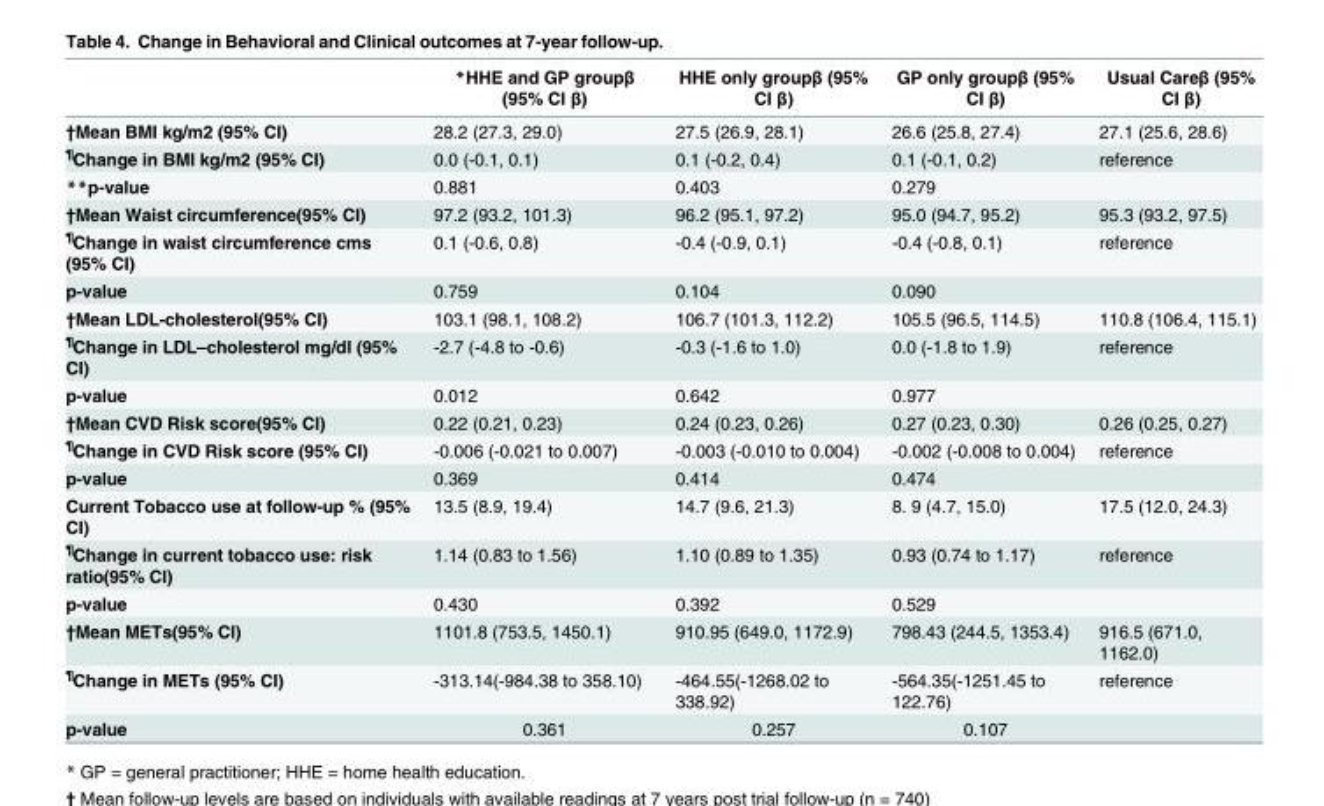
<table><thead><tr><td></td><td>*HHE and GP groupβ (95% CI β)</td><td>HHE only groupβ (95% CI β)</td><td>GP only groupβ (95% CI β)</td><td>Usual Careβ (95% CI β)</td></tr></thead><tbody><tr><td>†Mean BMI kg/m2 (95% CI)</td><td>28.2 (27.3, 29.0)</td><td>27.5 (26.9, 28.1)</td><td>26.6 (25.8, 27.4)</td><td>27.1 (25.6, 28.6)</td></tr><tr><td><sup>¶</sup>Change in BMI kg/m2 (95% CI)</td><td>0.0 (-0.1, 0.1)</td><td>0.1 (-0.2, 0.4)</td><td>0.1 (-0.1, 0.2)</td><td>reference</td></tr><tr><td>**p-value</td><td>0.881</td><td>0.403</td><td>0.279</td><td></td></tr><tr><td>†Mean Waist circumference(95% CI)</td><td>97.2 (93.2, 101.3)</td><td>96.2 (95.1, 97.2)</td><td>95.0 (94.7, 95.2)</td><td>95.3 (93.2, 97.5)</td></tr><tr><td><sup>¶</sup>Change in waist circumference cms (95% CI)</td><td>0.1 (-0.6, 0.8)</td><td>-0.4 (-0.9, 0.1)</td><td>-0.4 (-0.8, 0.1)</td><td>reference</td></tr><tr><td>p-value</td><td>0.759</td><td>0.104</td><td>0.090</td><td></td></tr><tr><td>†Mean LDL-cholesterol(95% CI)</td><td>103.1 (98.1, 108.2)</td><td>106.7 (101.3, 112.2)</td><td>105.5 (96.5, 114.5)</td><td>110.8 (106.4, 115.1)</td></tr><tr><td><sup>¶</sup>Change in LDL–cholesterol mg/dl (95% CI)</td><td>-2.7 (-4.8 to -0.6)</td><td>-0.3 (-1.6 to 1.0)</td><td>0.0 (-1.8 to 1.9)</td><td>reference</td></tr><tr><td>p-value</td><td>0.012</td><td>0.642</td><td>0.977</td><td></td></tr><tr><td>†Mean CVD Risk score(95% CI)</td><td>0.22 (0.21, 0.23)</td><td>0.24 (0.23, 0.26)</td><td>0.27 (0.23, 0.30)</td><td>0.26 (0.25, 0.27)</td></tr><tr><td><sup>¶</sup>Change in CVD Risk score (95% CI)</td><td>-0.006 (-0.021 to 0.007)</td><td>-0.003 (-0.010 to 0.004)</td><td>-0.002 (-0.008 to 0.004)</td><td>reference</td></tr><tr><td>p-value</td><td>0.369</td><td>0.414</td><td>0.474</td><td></td></tr><tr><td>Current Tobacco use at follow-up % (95% CI)</td><td>13.5 (8.9, 19.4)</td><td>14.7 (9.6, 21.3)</td><td>8. 9 (4.7, 15.0)</td><td>17.5 (12.0, 24.3)</td></tr><tr><td><sup>¶</sup>Change in current tobacco use: risk ratio(95% CI)</td><td>1.14 (0.83 to 1.56)</td><td>1.10 (0.89 to 1.35)</td><td>0.93 (0.74 to 1.17)</td><td>reference</td></tr><tr><td>p-value</td><td>0.430</td><td>0.392</td><td>0.529</td><td></td></tr><tr><td>†Mean METs(95% CI)</td><td>1101.8 (753.5, 1450.1)</td><td>910.95 (649.0, 1172.9)</td><td>798.43 (244.5, 1353.4)</td><td>916.5 (671.0, 1162.0)</td></tr><tr><td><sup>¶</sup>Change in METs (95% CI)</td><td>-313.14(-984.38 to 358.10)</td><td>-464.55(-1268.02 to 338.92)</td><td>-564.35(-1251.45 to 122.76)</td><td>reference</td></tr><tr><td>p-value</td><td>0.361</td><td>0.257</td><td>0.107</td><td></td></tr></tbody></table>